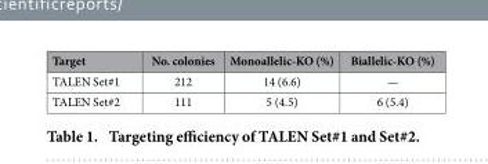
<table><thead><tr><td>Target</td><td>No. colonies</td><td>Monoallelic-KO (%)</td><td>Biallelic-KO (%)</td></tr></thead><tbody><tr><td>TALEN Set#1</td><td>212</td><td>14 (6.6)</td><td>—</td></tr><tr><td>TALEN Set#2</td><td>111</td><td>5 (4.5)</td><td>6 (5.4)</td></tr></tbody></table>